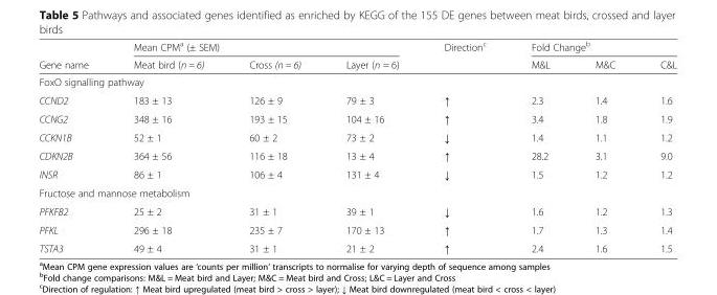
<table><thead><tr><td rowspan="2">Gene name</td><td colspan="3">Mean CPM<sup>a</sup> (± SEM)</td><td rowspan="2">Direction<sup>c</sup></td><td colspan="3">Fold Change<sup>b</sup></td></tr><tr><td>Meat bird (n = 6)</td><td>Cross (n = 6)</td><td>Layer (n = 6)</td><td>M&amp;L</td><td>M&amp;C</td><td>C&amp;L</td></tr></thead><tbody><tr><td colspan="8">FoxO signalling pathway</td></tr><tr><td>CCND2</td><td>183 ± 13</td><td>126 ± 9</td><td>79 ± 3</td><td>↑</td><td>2.3</td><td>1.4</td><td>1.6</td></tr><tr><td>CCNG2</td><td>348 ± 16</td><td>193 ± 15</td><td>104 ± 16</td><td>↑</td><td>3.4</td><td>1.8</td><td>1.9</td></tr><tr><td>CCKN1B</td><td>52 ± 1</td><td>60 ± 2</td><td>73 ± 2</td><td>↓</td><td>1.4</td><td>1.1</td><td>1.2</td></tr><tr><td>CDKN2B</td><td>364 ± 56</td><td>116 ± 18</td><td>13 ± 4</td><td>↑</td><td>28.2</td><td>3.1</td><td>9.0</td></tr><tr><td>INSR</td><td>86 ± 1</td><td>106 ± 4</td><td>131 ± 4</td><td>↓</td><td>1.5</td><td>1.2</td><td>1.2</td></tr><tr><td colspan="8">Fructose and mannose metabolism</td></tr><tr><td>PFKFB2</td><td>25 ± 2</td><td>31 ± 1</td><td>39 ± 1</td><td>↓</td><td>1.6</td><td>1.2</td><td>1.3</td></tr><tr><td>PFKL</td><td>296 ± 18</td><td>235 ± 7</td><td>170 ± 13</td><td>↑</td><td>1.7</td><td>1.3</td><td>1.4</td></tr><tr><td>TSTA3</td><td>49 ± 4</td><td>31 ± 1</td><td>21 ± 2</td><td>↑</td><td>2.4</td><td>1.6</td><td>1.5</td></tr></tbody></table>